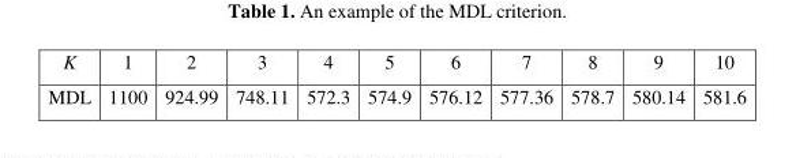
<table><thead><tr><td>K</td><td>1</td><td>2</td><td>3</td><td>4</td><td>5</td><td>6</td><td>7</td><td>8</td><td>9</td><td>10</td></tr></thead><tbody><tr><td>MDL</td><td>1100</td><td>924.99</td><td>748.11</td><td>572.3</td><td>574.9</td><td>576.12</td><td>577.36</td><td>578.7</td><td>580.14</td><td>581.6</td></tr></tbody></table>